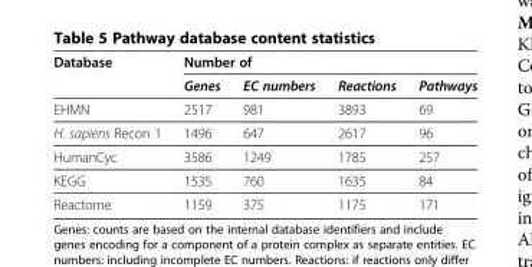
<table><thead><tr><td rowspan="2">Database</td><td colspan="4">Number of</td></tr><tr><td>Genes</td><td>EC numbers</td><td>Reactions</td><td>Pathways</td></tr></thead><tbody><tr><td>EHMN</td><td>2517</td><td>981</td><td>3893</td><td>69</td></tr><tr><td>H. sapiens Recon 1</td><td>1496</td><td>647</td><td>2617</td><td>96</td></tr><tr><td>HumanCyc</td><td>3586</td><td>1249</td><td>1785</td><td>257</td></tr><tr><td>KEGG</td><td>1535</td><td>760</td><td>1635</td><td>84</td></tr><tr><td>Reactome</td><td>1159</td><td>375</td><td>1175</td><td>171</td></tr></tbody></table>